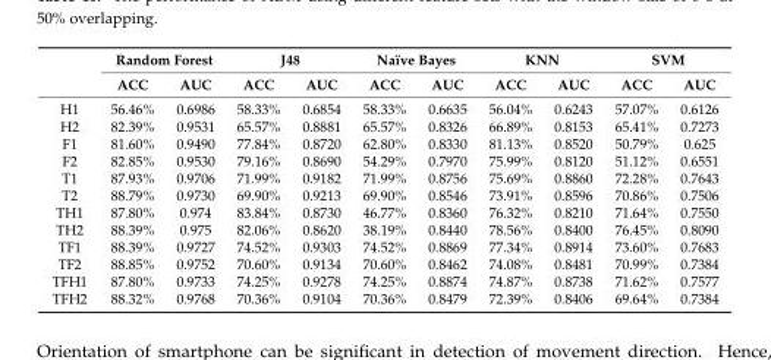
<table><thead><tr><td rowspan="2"></td><td colspan="2">Random Forest</td><td colspan="2">J48</td><td colspan="2">Naïve Bayes</td><td colspan="2">KNN</td><td colspan="2">SVM</td></tr><tr><td>ACC</td><td>AUC</td><td>ACC</td><td>AUC</td><td>ACC</td><td>AUC</td><td>ACC</td><td>AUC</td><td>ACC</td><td>AUC</td></tr></thead><tbody><tr><td>H1</td><td>56.46%</td><td>0.6986</td><td>58.33%</td><td>0.6854</td><td>58.33%</td><td>0.6635</td><td>56.04%</td><td>0.6243</td><td>57.07%</td><td>0.6126</td></tr><tr><td>H2</td><td>82.39%</td><td>0.9531</td><td>65.57%</td><td>0.8881</td><td>65.57%</td><td>0.8326</td><td>66.89%</td><td>0.8153</td><td>65.41%</td><td>0.7273</td></tr><tr><td>F1</td><td>81.60%</td><td>0.9490</td><td>77.84%</td><td>0.8720</td><td>62.80%</td><td>0.8330</td><td>81.13%</td><td>0.8520</td><td>50.79%</td><td>0.625</td></tr><tr><td>F2</td><td>82.85%</td><td>0.9530</td><td>79.16%</td><td>0.8690</td><td>54.29%</td><td>0.7970</td><td>75.99%</td><td>0.8120</td><td>51.12%</td><td>0.6551</td></tr><tr><td>T1</td><td>87.93%</td><td>0.9706</td><td>71.99%</td><td>0.9182</td><td>71.99%</td><td>0.8756</td><td>75.69%</td><td>0.8860</td><td>72.28%</td><td>0.7643</td></tr><tr><td>T2</td><td>88.79%</td><td>0.9730</td><td>69.90%</td><td>0.9213</td><td>69.90%</td><td>0.8546</td><td>73.91%</td><td>0.8596</td><td>70.86%</td><td>0.7506</td></tr><tr><td>TH1</td><td>87.80%</td><td>0.974</td><td>83.84%</td><td>0.8730</td><td>46.77%</td><td>0.8360</td><td>76.32%</td><td>0.8210</td><td>71.64%</td><td>0.7550</td></tr><tr><td>TH2</td><td>88.39%</td><td>0.975</td><td>82.06%</td><td>0.8620</td><td>38.19%</td><td>0.8440</td><td>78.56%</td><td>0.8400</td><td>76.45%</td><td>0.8090</td></tr><tr><td>TF1</td><td>88.39%</td><td>0.9727</td><td>74.52%</td><td>0.9303</td><td>74.52%</td><td>0.8869</td><td>77.34%</td><td>0.8914</td><td>73.60%</td><td>0.7683</td></tr><tr><td>TF2</td><td>88.85%</td><td>0.9752</td><td>70.60%</td><td>0.9134</td><td>70.60%</td><td>0.8462</td><td>74.08%</td><td>0.8481</td><td>70.99%</td><td>0.7384</td></tr><tr><td>TFH1</td><td>87.80%</td><td>0.9733</td><td>74.25%</td><td>0.9278</td><td>74.25%</td><td>0.8874</td><td>74.87%</td><td>0.8738</td><td>71.62%</td><td>0.7577</td></tr><tr><td>TFH2</td><td>88.32%</td><td>0.9768</td><td>70.36%</td><td>0.9104</td><td>70.36%</td><td>0.8479</td><td>72.39%</td><td>0.8406</td><td>69.64%</td><td>0.7384</td></tr></tbody></table>